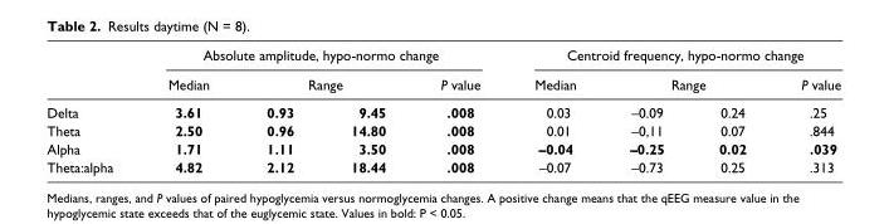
<table><thead><tr><td rowspan="3">Delta</td><td colspan="4">Absolute amplitude, hypo-normo change</td><td colspan="4">Centroid frequency, hypo-normo change</td></tr><tr><td rowspan="2">Median 3.61</td><td colspan="2">Range</td><td rowspan="2">P value .008</td><td rowspan="2">Median 0.03</td><td colspan="2">Range</td><td rowspan="2">P value .25</td></tr><tr><td>0.93</td><td>9.45</td><td>–0.09</td><td>0.24</td></tr></thead><tbody><tr><td>Theta</td><td>2.50</td><td>0.96</td><td>14.80</td><td>.008</td><td>0.01</td><td>–0,11</td><td>0.07</td><td>.844</td></tr><tr><td>Alpha</td><td>1.71</td><td>1.11</td><td>3.50</td><td>.008</td><td>–0.04</td><td>–0.25</td><td>0.02</td><td>.039</td></tr><tr><td>Theta:alpha</td><td>4.82</td><td>2.12</td><td>18.44</td><td>.008</td><td>–0.07</td><td>–0.73</td><td>0.25</td><td>.313</td></tr></tbody></table>